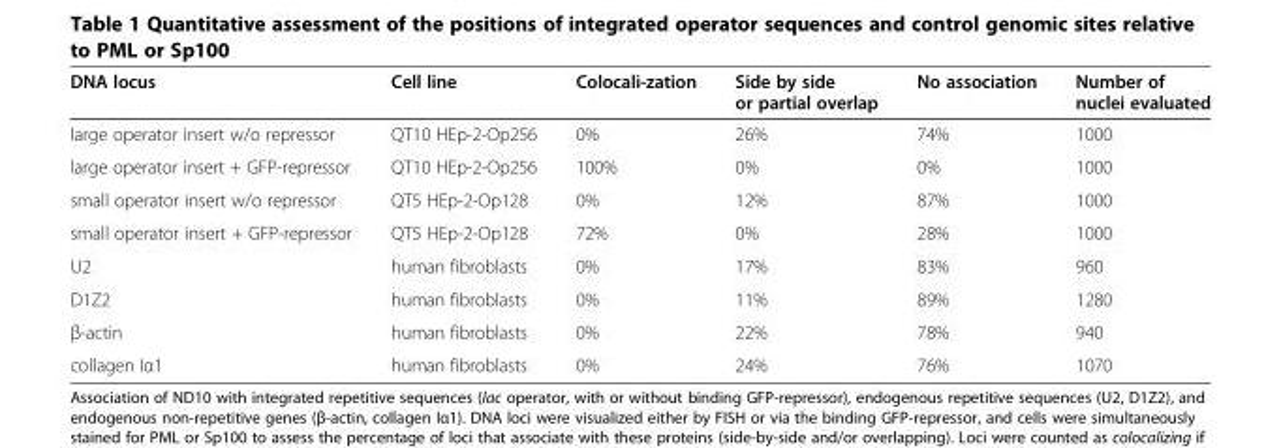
<table><thead><tr><td>DNA locus</td><td>Cell line</td><td>Colocali-zation</td><td>Side by side or partial overlap</td><td>No association</td><td>Number of nuclei evaluated</td></tr></thead><tbody><tr><td>large operator insert w/o repressor</td><td>QT10 HEp-2-Op256</td><td>0%</td><td>26%</td><td>74%</td><td>1000</td></tr><tr><td>large operator insert + GFP-repressor</td><td>QT10 HEp-2-Op256</td><td>100%</td><td>0%</td><td>0%</td><td>1000</td></tr><tr><td>small operator insert w/o repressor</td><td>QT5 HEp-2-Op128</td><td>0%</td><td>12%</td><td>87%</td><td>1000</td></tr><tr><td>small operator insert + GFP-repressor</td><td>QT5 HEp-2-Op128</td><td>72%</td><td>0%</td><td>28%</td><td>1000</td></tr><tr><td>U2</td><td>human fibroblasts</td><td>0%</td><td>17%</td><td>83%</td><td>960</td></tr><tr><td>D1Z2</td><td>human fibroblasts</td><td>0%</td><td>11%</td><td>89%</td><td>1280</td></tr><tr><td>β-actin</td><td>human fibroblasts</td><td>0%</td><td>22%</td><td>78%</td><td>940</td></tr><tr><td>collagen Iα1</td><td>human fibroblasts</td><td>0%</td><td>24%</td><td>76%</td><td>1070</td></tr></tbody></table>